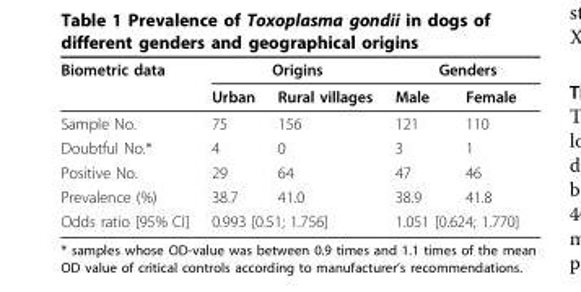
<table><thead><tr><td rowspan="2">Biometric data</td><td colspan="2">Origins</td><td colspan="2">Genders</td></tr><tr><td>Urban</td><td>Rural villages</td><td>Male</td><td>Female</td></tr></thead><tbody><tr><td>Sample No.</td><td>75</td><td>156</td><td>121</td><td>110</td></tr><tr><td>Doubtful No.*</td><td>4</td><td>0</td><td>3</td><td>1</td></tr><tr><td>Positive No.</td><td>29</td><td>64</td><td>47</td><td>46</td></tr><tr><td>Prevalence (%)</td><td>38.7</td><td>41.0</td><td>38.9</td><td>41.8</td></tr><tr><td>Odds ratio [95% CI]</td><td colspan="2">0.993 [0.51; 1.756]</td><td colspan="2">1.051 [0.624; 1.770]</td></tr></tbody></table>